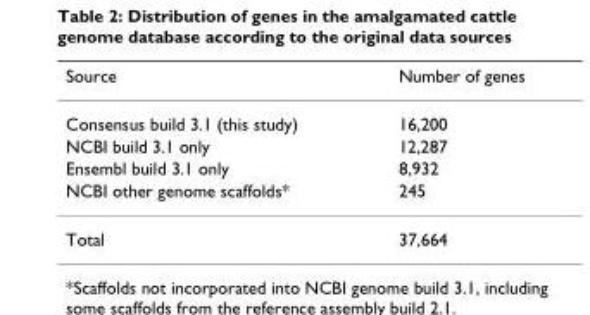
<table><thead><tr><td>Source</td><td>Number of genes</td></tr></thead><tbody><tr><td>Consensus build 3.1 (this study)</td><td>16,200</td></tr><tr><td>NCBI build 3.1 only</td><td>12,287</td></tr><tr><td>Ensembl build 3.1 only</td><td>8,932</td></tr><tr><td>NCBI other genome scaffolds*</td><td>245</td></tr><tr><td>Total</td><td>37,664</td></tr></tbody></table>